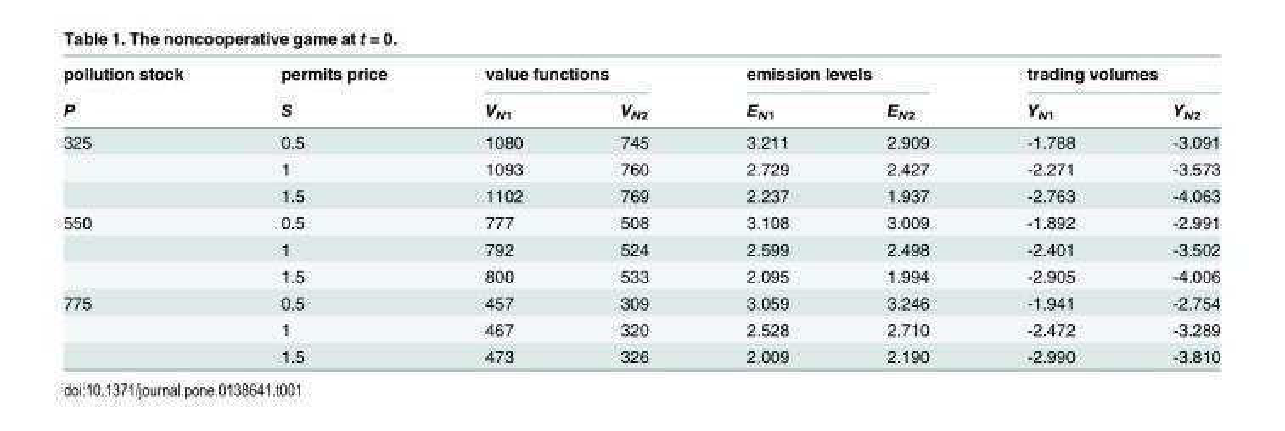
<table><thead><tr><td rowspan="2">pollution stock P</td><td rowspan="2">permits price S</td><td colspan="2">value functions</td><td colspan="2">emission levels</td><td colspan="2">trading volumes</td></tr><tr><td>V<sub>N1</sub></td><td>V<sub>N2</sub></td><td>E<sub>N1</sub></td><td>E<sub>N2</sub></td><td>Y<sub>N1</sub></td><td>Y<sub>N2</sub></td></tr></thead><tbody><tr><td rowspan="3">325</td><td>0.5</td><td>1080</td><td>745</td><td>3.211</td><td>2.909</td><td>-1.788</td><td>-3.091</td></tr><tr><td>1</td><td>1093</td><td>760</td><td>2.729</td><td>2.427</td><td>-2.271</td><td>-3.573</td></tr><tr><td>1.5</td><td>1102</td><td>769</td><td>2.237</td><td>1.937</td><td>-2.763</td><td>-4.063</td></tr><tr><td rowspan="3">550</td><td>0.5</td><td>777</td><td>508</td><td>3.108</td><td>3.009</td><td>-1.892</td><td>-2.991</td></tr><tr><td>1</td><td>792</td><td>524</td><td>2.599</td><td>2.498</td><td>-2.401</td><td>-3.502</td></tr><tr><td>1.5</td><td>800</td><td>533</td><td>2.095</td><td>1.994</td><td>-2.905</td><td>-4.006</td></tr><tr><td rowspan="3">775</td><td>0.5</td><td>457</td><td>309</td><td>3.059</td><td>3.246</td><td>-1.941</td><td>-2.754</td></tr><tr><td>1</td><td>467</td><td>320</td><td>2.528</td><td>2.710</td><td>-2.472</td><td>-3.289</td></tr><tr><td>1.5</td><td>473</td><td>326</td><td>2.009</td><td>2.190</td><td>-2.990</td><td>-3.810</td></tr></tbody></table>